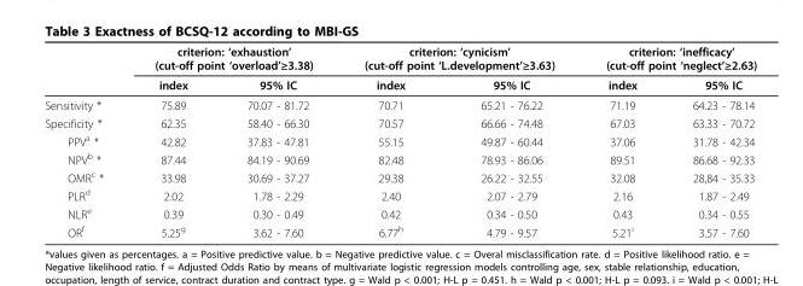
<table><thead><tr><td rowspan="2"></td><td colspan="2">criterion: ‘exhaustion’ (cut-off point ‘overload’≥3.38)</td><td colspan="2">criterion: ‘cynicism’ (cut-off point ‘L.development’≥3.63)</td><td colspan="2">criterion: ‘inefficacy’ (cut-off point ‘neglect’≥2.63)</td></tr><tr><td>index</td><td>95% IC</td><td>index</td><td>95% IC</td><td>index</td><td>95% IC</td></tr></thead><tbody><tr><td>Sensitivity *</td><td>75.89</td><td>70.07 - 81.72</td><td>70.71</td><td>65.21 - 76.22</td><td>71.19</td><td>64.23 - 78.14</td></tr><tr><td>Specificity *</td><td>62.35</td><td>58.40 - 66.30</td><td>70.57</td><td>66.66 - 74.48</td><td>67.03</td><td>63.33 - 70.72</td></tr><tr><td>PPV<sup>a</sup> *</td><td>42.82</td><td>37.83 - 47.81</td><td>55.15</td><td>49.87 - 60.44</td><td>37.06</td><td>31.78 - 42.34</td></tr><tr><td>NPV<sup>b</sup> *</td><td>87.44</td><td>84.19 - 90.69</td><td>82.48</td><td>78.93 - 86.06</td><td>89.51</td><td>86.68 - 92.33</td></tr><tr><td>OMR<sup>c</sup> *</td><td>33.98</td><td>30.69 - 37.27</td><td>29.38</td><td>26.22 - 32.55</td><td>32.08</td><td>28,84 - 35.33</td></tr><tr><td>PLR<sup>d</sup></td><td>2.02</td><td>1.78 - 2.29</td><td>2.40</td><td>2.07 - 2.79</td><td>2.16</td><td>1.87 - 2.49</td></tr><tr><td>NLR<sup>e</sup></td><td>0.39</td><td>0.30 - 0.49</td><td>0.42</td><td>0.34 - 0.50</td><td>0.43</td><td>0.34 - 0.55</td></tr><tr><td>OR<sup>f</sup></td><td>5.25<sup>g</sup></td><td>3.62 - 7.60</td><td>6.77<sup>h</sup></td><td>4.79 - 9.57</td><td>5.21<sup>i</sup></td><td>3.57 - 7.60</td></tr></tbody></table>